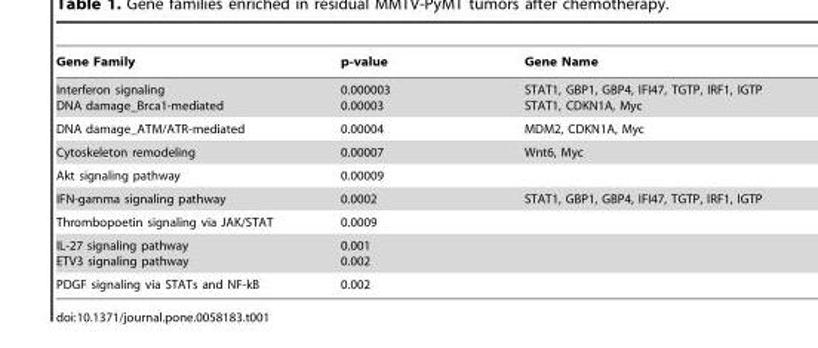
<table><thead><tr><td>Gene Family</td><td>p-value</td><td>Gene Name</td></tr></thead><tbody><tr><td>Interferon signaling DNA damage_Brca1-mediated</td><td>0.000003 0.00003</td><td>STAT1, GBP1, GBP4, IFI47, TGTP, IRF1, IGTP STAT1, CDKN1A, Myc</td></tr><tr><td>DNA damage_ATM/ATR-mediated</td><td>0.00004</td><td>MDM2, CDKN1A, Myc</td></tr><tr><td>Cytoskeleton remodeling</td><td>0.00007</td><td>Wnt6, Myc</td></tr><tr><td>Akt signaling pathway</td><td>0.00009</td><td></td></tr><tr><td>IFN-gamma signaling pathway</td><td>0.0002</td><td>STAT1, GBP1, GBP4, IFI47, TGTP, IRF1, IGTP</td></tr><tr><td>Thrombopoetin signaling via JAK/STAT</td><td>0.0009</td><td></td></tr><tr><td>IL-27 signaling pathway ETV3 signaling pathway</td><td>0.001 0.002</td><td></td></tr><tr><td>PDGF signaling via STATs and NF-kB</td><td>0.002</td><td></td></tr></tbody></table>